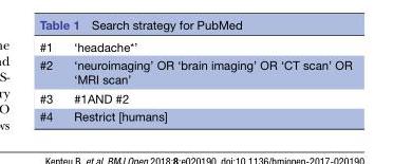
<table><tbody><tr><td>#1</td><td>‘headache*’</td></tr><tr><td>#2</td><td>‘neuroimaging’ OR ‘brain imaging’ OR ‘CT scan’ OR ‘MRI scan’</td></tr><tr><td>#3</td><td>#1AND #2</td></tr><tr><td>#4</td><td>Restrict [humans]</td></tr></tbody></table>